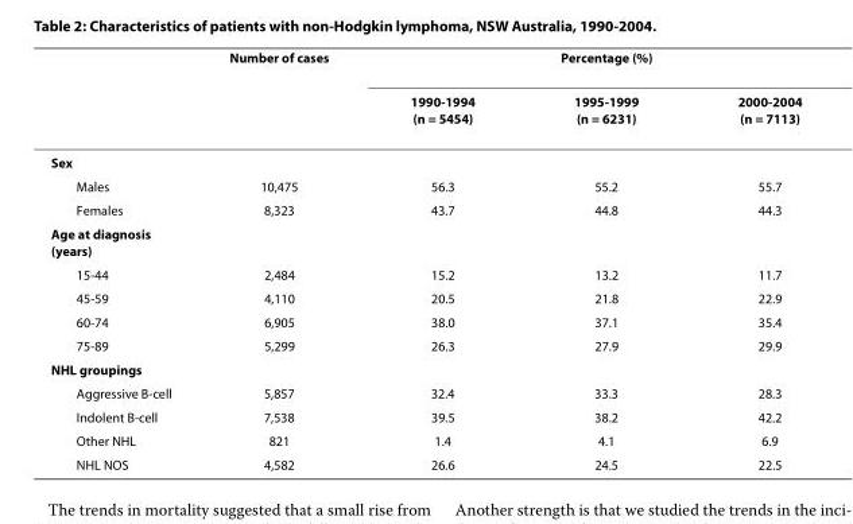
<table><thead><tr><td rowspan="2"></td><td rowspan="2">Number of cases</td><td colspan="3">Percentage (%)</td></tr><tr><td>1990-1994 (n = 5454)</td><td>1995-1999 (n = 6231)</td><td>2000-2004 (n = 7113)</td></tr></thead><tbody><tr><td colspan="5">Sex</td></tr><tr><td>Males</td><td>10,475</td><td>56.3</td><td>55.2</td><td>55.7</td></tr><tr><td>Females</td><td>8,323</td><td>43.7</td><td>44.8</td><td>44.3</td></tr><tr><td colspan="5">Age at diagnosis (years)</td></tr><tr><td>15-44</td><td>2,484</td><td>15.2</td><td>13.2</td><td>11.7</td></tr><tr><td>45-59</td><td>4,110</td><td>20.5</td><td>21.8</td><td>22.9</td></tr><tr><td>60-74</td><td>6,905</td><td>38.0</td><td>37.1</td><td>35.4</td></tr><tr><td>75-89</td><td>5,299</td><td>26.3</td><td>27.9</td><td>29.9</td></tr><tr><td colspan="5">NHL groupings</td></tr><tr><td>Aggressive B-cell</td><td>5,857</td><td>32.4</td><td>33.3</td><td>28.3</td></tr><tr><td>Indolent B-cell</td><td>7,538</td><td>39.5</td><td>38.2</td><td>42.2</td></tr><tr><td>Other NHL</td><td>821</td><td>1.4</td><td>4.1</td><td>6.9</td></tr><tr><td>NHL NOS</td><td>4,582</td><td>26.6</td><td>24.5</td><td>22.5</td></tr></tbody></table>